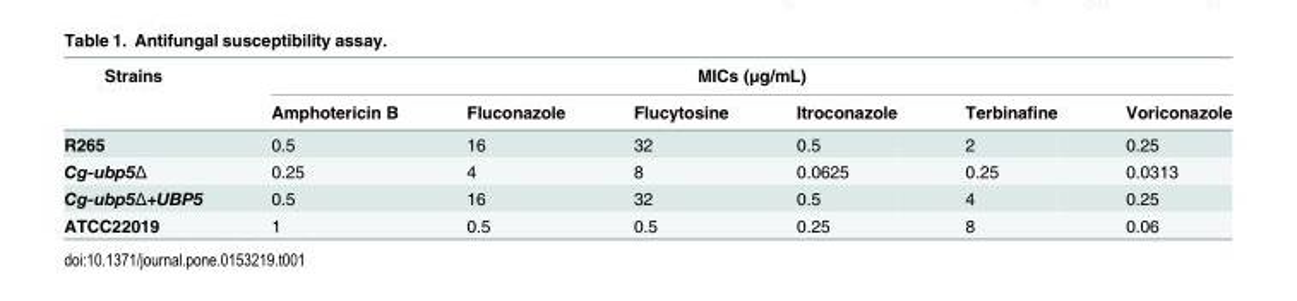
<table><thead><tr><td rowspan="2">Strains</td><td colspan="6">MICs (μg/mL)</td></tr><tr><td>Amphotericin B</td><td>Fluconazole</td><td>Flucytosine</td><td>Itroconazole</td><td>Terbinafine</td><td>Voriconazole</td></tr></thead><tbody><tr><td>R265</td><td>0.5</td><td>16</td><td>32</td><td>0.5</td><td>2</td><td>0.25</td></tr><tr><td>Cg-ubp5Δ</td><td>0.25</td><td>4</td><td>8</td><td>0.0625</td><td>0.25</td><td>0.0313</td></tr><tr><td>Cg-ubp5Δ+UBP5</td><td>0.5</td><td>16</td><td>32</td><td>0.5</td><td>4</td><td>0.25</td></tr><tr><td>ATCC22019</td><td>1</td><td>0.5</td><td>0.5</td><td>0.25</td><td>8</td><td>0.06</td></tr></tbody></table>